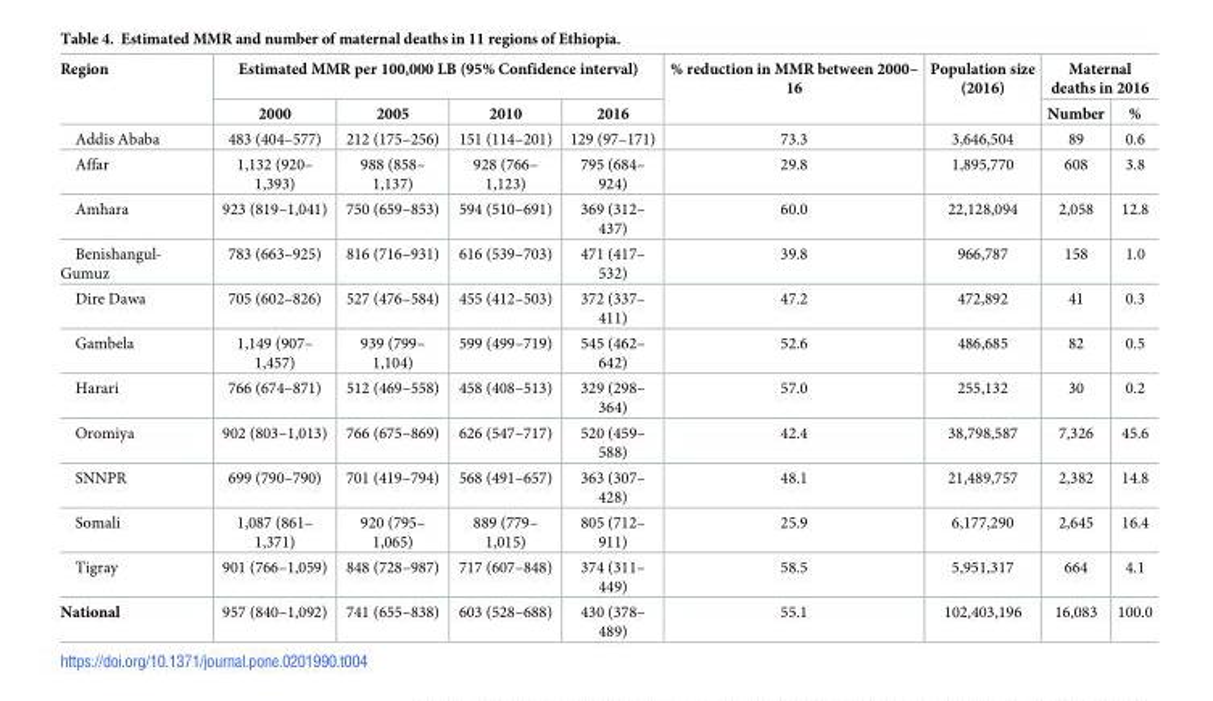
<table><thead><tr><td rowspan="2">Region</td><td colspan="4">Estimated MMR per 100,000 LB (95% Confidence interval)</td><td rowspan="2">% reduction in MMR between 2000– 16</td><td rowspan="2">Population size (2016)</td><td colspan="2">Maternal deaths in 2016</td></tr><tr><td>2000</td><td>2005</td><td>2010</td><td>2016</td><td>Number</td><td>%</td></tr></thead><tbody><tr><td>Addis Ababa</td><td>483 (404–577)</td><td>212 (175–256)</td><td>151 (114–201)</td><td>129 (97–171)</td><td>73.3</td><td>3,646,504</td><td>89</td><td>0.6</td></tr><tr><td>Affar</td><td>1,132 (920– 1,393)</td><td>988 (858– 1,137)</td><td>928 (766– 1,123)</td><td>795 (684– 924)</td><td>29.8</td><td>1,895,770</td><td>608</td><td>3.8</td></tr><tr><td>Amhara</td><td>923 (819–1,041)</td><td>750 (659–853)</td><td>594 (510–691)</td><td>369 (312– 437)</td><td>60.0</td><td>22,128,094</td><td>2,058</td><td>12.8</td></tr><tr><td>Benishangul- Gumuz</td><td>783 (663–925)</td><td>816 (716–931)</td><td>616 (539–703)</td><td>471 (417– 532)</td><td>39.8</td><td>966,787</td><td>158</td><td>1.0</td></tr><tr><td>Dire Dawa</td><td>705 (602–826)</td><td>527 (476–584)</td><td>455 (412–503)</td><td>372 (337– 411)</td><td>47.2</td><td>472,892</td><td>41</td><td>0.3</td></tr><tr><td>Gambela</td><td>1,149 (907– 1,457)</td><td>939 (799– 1,104)</td><td>599 (499–719)</td><td>545 (462– 642)</td><td>52.6</td><td>486,685</td><td>82</td><td>0.5</td></tr><tr><td>Harari</td><td>766 (674–871)</td><td>512 (469–558)</td><td>458 (408–513)</td><td>329 (298– 364)</td><td>57.0</td><td>255,132</td><td>30</td><td>0.2</td></tr><tr><td>Oromiya</td><td>902 (803–1,013)</td><td>766 (675–869)</td><td>626 (547–717)</td><td>520 (459– 588)</td><td>42.4</td><td>38,798,587</td><td>7,326</td><td>45.6</td></tr><tr><td>SNNPR</td><td>699 (790–790)</td><td>701 (419–794)</td><td>568 (491–657)</td><td>363 (307– 428)</td><td>48.1</td><td>21,489,757</td><td>2,382</td><td>14.8</td></tr><tr><td>Somali</td><td>1,087 (861– 1,371)</td><td>920 (795– 1,065)</td><td>889 (779– 1,015)</td><td>805 (712– 911)</td><td>25.9</td><td>6,177,290</td><td>2,645</td><td>16.4</td></tr><tr><td>Tigray</td><td>901 (766–1,059)</td><td>848 (728–987)</td><td>717 (607–848)</td><td>374 (311– 449)</td><td>58.5</td><td>5,951,317</td><td>664</td><td>4.1</td></tr><tr><td>National</td><td>957 (840–1,092)</td><td>741 (655–838)</td><td>603 (528–688)</td><td>430 (378– 489)</td><td>55.1</td><td>102,403,196</td><td>16,083</td><td>100.0</td></tr></tbody></table>